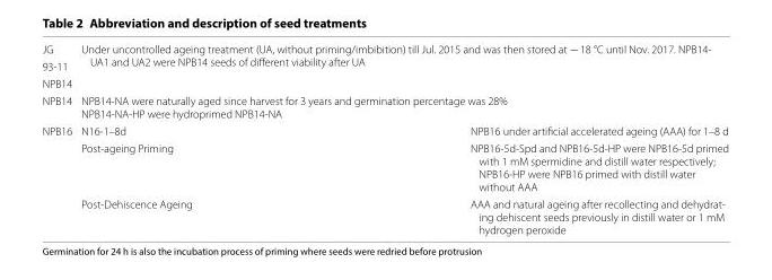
<table><tbody><tr><td>JG</td><td rowspan="3" colspan="2">Under uncontrolled ageing treatment (UA, without priming/imbibition) till Jul. 2015 and was then stored at − 18 °C until Nov. 2017. NPB14‑ UA1 and UA2 were NPB14 seeds of different viability after UA</td></tr><tr><td>93‑11</td></tr><tr><td>NPB14</td></tr><tr><td>NPB14</td><td colspan="2">NPB14‑NA were naturally aged since harvest for 3 years and germination percentage was 28% NPB14‑NA‑HP were hydroprimed NPB14‑NA</td></tr><tr><td rowspan="3">NPB16</td><td>N16‑1–8d</td><td>NPB16 under artificial accelerated ageing (AAA) for 1–8 d</td></tr><tr><td>Post‑ageing Priming</td><td>NPB16‑5d‑Spd and NPB16‑5d‑HP were NPB16‑5d primed with 1 mM spermidine and distill water respectively; NPB16‑HP were NPB16 primed with distill water without AAA</td></tr><tr><td>Post‑Dehiscence Ageing</td><td>AAA and natural ageing after recollecting and dehydrat‑ ing dehiscent seeds previously in distill water or 1 mM hydrogen peroxide</td></tr></tbody></table>